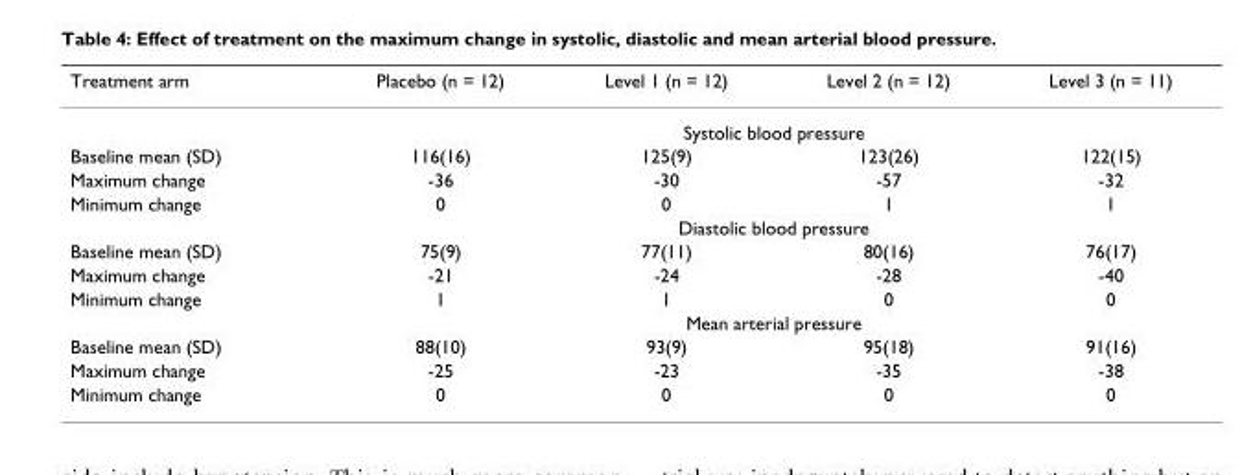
<table><thead><tr><td>Treatment arm</td><td>Placebo (n = 12)</td><td>Level 1 (n = 12)</td><td>Level 2 (n = 12)</td><td>Level 3 (n = 11)</td></tr></thead><tbody><tr><td></td><td colspan="4">Systolic blood pressure</td></tr><tr><td>Baseline mean (SD)</td><td>116(16)</td><td>125(9)</td><td>123(26)</td><td>122(15)</td></tr><tr><td>Maximum change</td><td>-36</td><td>-30</td><td>-57</td><td>-32</td></tr><tr><td rowspan="2">Minimum change</td><td>0</td><td>0</td><td>1</td><td>1</td></tr><tr><td colspan="4">Diastolic blood pressure</td></tr><tr><td>Baseline mean (SD)</td><td>75(9)</td><td>77(11)</td><td>80(16)</td><td>76(17)</td></tr><tr><td>Maximum change</td><td>-21</td><td>-24</td><td>-28</td><td>-40</td></tr><tr><td rowspan="2">Minimum change</td><td>1</td><td>1</td><td>0</td><td>0</td></tr><tr><td colspan="4">Mean arterial pressure</td></tr><tr><td>Baseline mean (SD)</td><td>88(10)</td><td>93(9)</td><td>95(18)</td><td>91(16)</td></tr><tr><td>Maximum change</td><td>-25</td><td>-23</td><td>-35</td><td>-38</td></tr><tr><td>Minimum change</td><td>0</td><td>0</td><td>0</td><td>0</td></tr></tbody></table>